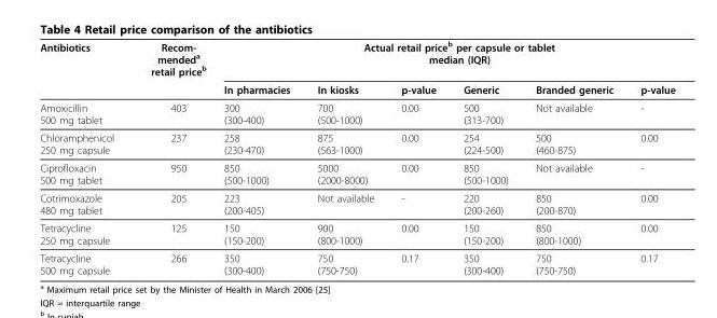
<table><thead><tr><td rowspan="2">Antibiotics</td><td rowspan="2">Recom- mended<sup>a</sup> retail price<sup>b</sup></td><td colspan="6">Actual retail price<sup>b</sup> per capsule or tablet median (IQR)</td></tr><tr><td>In pharmacies</td><td>In kiosks</td><td>p-value</td><td>Generic</td><td>Branded generic</td><td>p-value</td></tr></thead><tbody><tr><td>Amoxicillin 500 mg tablet</td><td>403</td><td>300 (300-400)</td><td>700 (500-1000)</td><td>0.00</td><td>500 (313-700)</td><td>Not available</td><td>-</td></tr><tr><td>Chloramphenicol 250 mg capsule</td><td>237</td><td>258 (230-470)</td><td>875 (563-1000)</td><td>0.00</td><td>254 (224-500)</td><td>500 (460-875)</td><td>0.00</td></tr><tr><td>Ciprofloxacin 500 mg tablet</td><td>950</td><td>850 (500-1000)</td><td>5000 (2000-8000)</td><td>0.00</td><td>850 (500-1000)</td><td>Not available</td><td>-</td></tr><tr><td>Cotrimoxazole 480 mg tablet</td><td>205</td><td>223 (200-405)</td><td>Not available</td><td>-</td><td>220 (200-260)</td><td>850 (200-870)</td><td>0.00</td></tr><tr><td>Tetracycline 250 mg capsule</td><td>125</td><td>150 (150-200)</td><td>900 (800-1000)</td><td>0.00</td><td>150 (150-200)</td><td>850 (800-1000)</td><td>0.00</td></tr><tr><td>Tetracycline 500 mg capsule</td><td>266</td><td>350 (300-400)</td><td>750 (750-750)</td><td>0.17</td><td>350 (300-400)</td><td>750 (750-750)</td><td>0.17</td></tr></tbody></table>